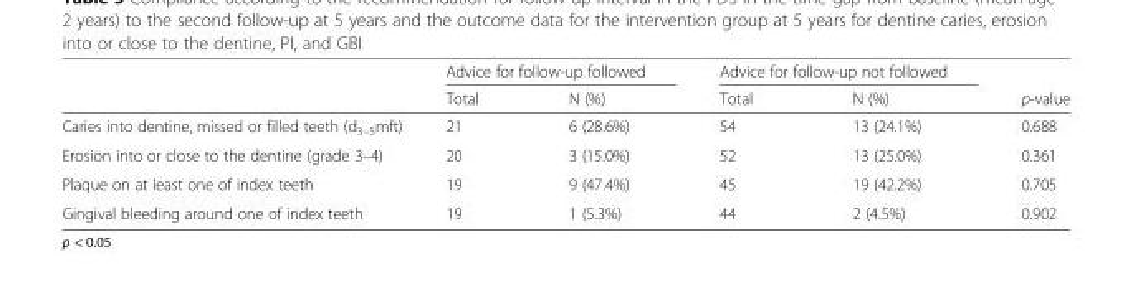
<table><thead><tr><td rowspan="2"></td><td colspan="2">Advice for follow-up followed</td><td colspan="2">Advice for follow-up not followed</td><td rowspan="2">p-value</td></tr><tr><td>Total</td><td>N (%)</td><td>Total</td><td>N (%)</td></tr></thead><tbody><tr><td>Caries into dentine, missed or filled teeth (d<sub>3–5</sub>mft)</td><td>21</td><td>6 (28.6%)</td><td>54</td><td>13 (24.1%)</td><td>0.688</td></tr><tr><td>Erosion into or close to the dentine (grade 3–4)</td><td>20</td><td>3 (15.0%)</td><td>52</td><td>13 (25.0%)</td><td>0.361</td></tr><tr><td>Plaque on at least one of index teeth</td><td>19</td><td>9 (47.4%)</td><td>45</td><td>19 (42.2%)</td><td>0.705</td></tr><tr><td>Gingival bleeding around one of index teeth</td><td>19</td><td>1 (5.3%)</td><td>44</td><td>2 (4.5%)</td><td>0.902</td></tr></tbody></table>